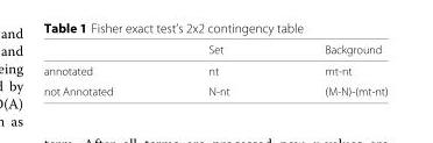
<table><thead><tr><td></td><td>Set</td><td>Background</td></tr></thead><tbody><tr><td>annotated</td><td>nt</td><td>mt-nt</td></tr><tr><td>not Annotated</td><td>N-nt</td><td>(M-N)-(mt-nt)</td></tr></tbody></table>